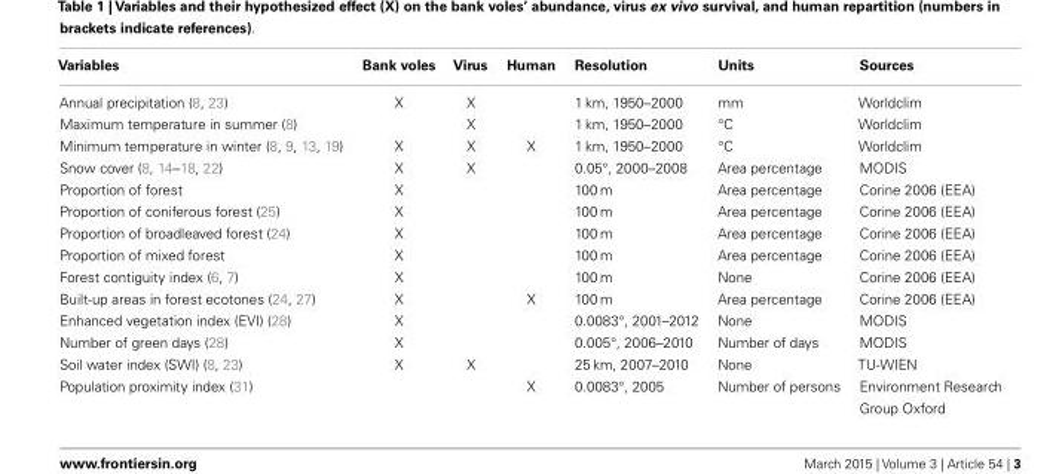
<table><thead><tr><td>Variables</td><td>Bank voles</td><td>Virus</td><td>Human</td><td>Resolution</td><td>Units</td><td>Sources</td></tr></thead><tbody><tr><td>Annual precipitation (8, 23)</td><td>X</td><td>X</td><td></td><td>1 km, 1950–2000</td><td>mm</td><td>Worldclim</td></tr><tr><td>Maximum temperature in summer (8)</td><td></td><td>X</td><td></td><td>1 km, 1950–2000</td><td>°C</td><td>Worldclim</td></tr><tr><td>Minimum temperature in winter (8, 9, 13, 19)</td><td>X</td><td>X</td><td>X</td><td>1 km, 1950–2000</td><td>°C</td><td>Worldclim</td></tr><tr><td>Snow cover (8, 14–18, 22)</td><td>X</td><td>X</td><td></td><td>0.05°, 2000–2008</td><td>Area percentage</td><td>MODIS</td></tr><tr><td>Proportion of forest</td><td>X</td><td></td><td></td><td>100 m</td><td>Area percentage</td><td>Corine 2006 (EEA)</td></tr><tr><td>Proportion of coniferous forest (25)</td><td>X</td><td></td><td></td><td>100 m</td><td>Area percentage</td><td>Corine 2006 (EEA)</td></tr><tr><td>Proportion of broadleaved forest (24)</td><td>X</td><td></td><td></td><td>100 m</td><td>Area percentage</td><td>Corine 2006 (EEA)</td></tr><tr><td>Proportion of mixed forest</td><td>X</td><td></td><td></td><td>100 m</td><td>Area percentage</td><td>Corine 2006 (EEA)</td></tr><tr><td>Forest contiguity index (6, 7)</td><td>X</td><td></td><td></td><td>100 m</td><td>None</td><td>Corine 2006 (EEA)</td></tr><tr><td>Built-up areas in forest ecotones (24, 27)</td><td>X</td><td></td><td>X</td><td>100 m</td><td>Area percentage</td><td>Corine 2006 (EEA)</td></tr><tr><td>Enhanced vegetation index (EVI) (28)</td><td>X</td><td></td><td></td><td>0.0083°, 2001–2012</td><td>None</td><td>MODIS</td></tr><tr><td>Number of green days (28)</td><td>X</td><td></td><td></td><td>0.005°, 2006–2010</td><td>Number of days</td><td>MODIS</td></tr><tr><td>Soil water index (SWI) (8, 23)</td><td>X</td><td>X</td><td></td><td>25 km, 2007–2010</td><td>None</td><td>TU-WIEN</td></tr><tr><td>Population proximity index (31)</td><td></td><td></td><td>X</td><td>0.0083°, 2005</td><td>Number of persons</td><td>Environment Research Group Oxford</td></tr></tbody></table>